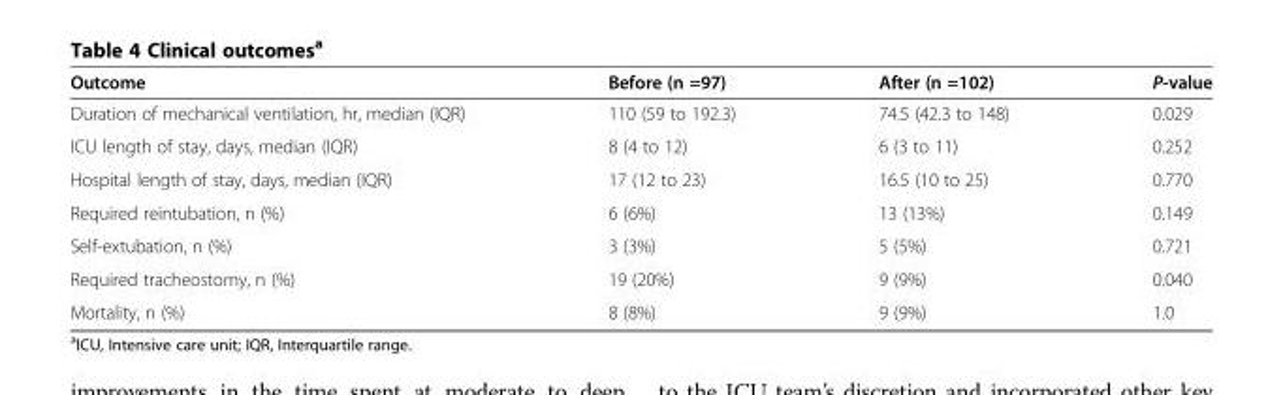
<table><thead><tr><td>Outcome</td><td>Before (n =97)</td><td>After (n =102)</td><td>P-value</td></tr></thead><tbody><tr><td>Duration of mechanical ventilation, hr, median (IQR)</td><td>110 (59 to 192.3)</td><td>74.5 (42.3 to 148)</td><td>0.029</td></tr><tr><td>ICU length of stay, days, median (IQR)</td><td>8 (4 to 12)</td><td>6 (3 to 11)</td><td>0.252</td></tr><tr><td>Hospital length of stay, days, median (IQR)</td><td>17 (12 to 23)</td><td>16.5 (10 to 25)</td><td>0.770</td></tr><tr><td>Required reintubation, n (%)</td><td>6 (6%)</td><td>13 (13%)</td><td>0.149</td></tr><tr><td>Self-extubation, n (%)</td><td>3 (3%)</td><td>5 (5%)</td><td>0.721</td></tr><tr><td>Required tracheostomy, n (%)</td><td>19 (20%)</td><td>9 (9%)</td><td>0.040</td></tr><tr><td>Mortality, n (%)</td><td>8 (8%)</td><td>9 (9%)</td><td>1.0</td></tr></tbody></table>